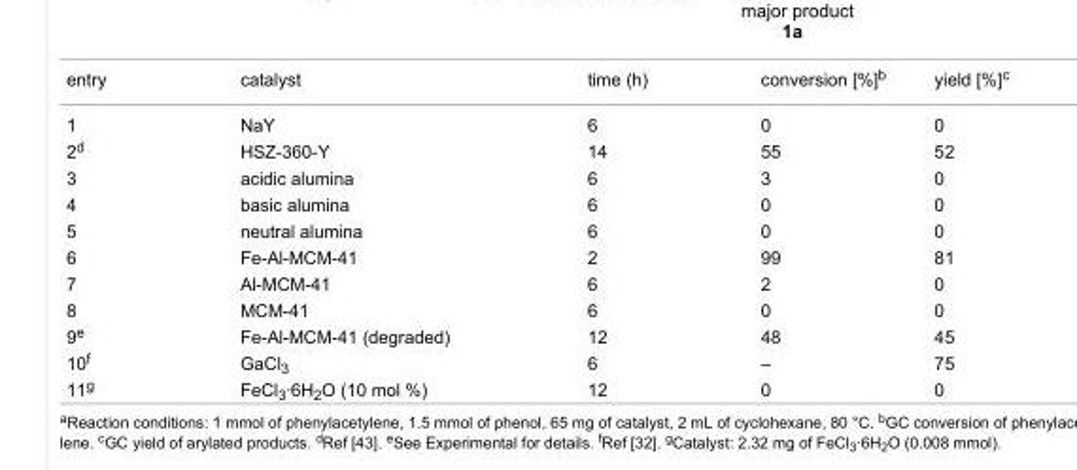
<table><tbody><tr><td>entry</td><td>catalyst</td><td>time (h)</td><td>conversion [%]<sup>b</sup></td><td>yield [%]<sup>c</sup></td></tr><tr><td>1</td><td>NaY</td><td>6</td><td>0</td><td>0</td></tr><tr><td>2<sup>d</sup></td><td>HSZ-360-Y</td><td>14</td><td>55</td><td>52</td></tr><tr><td>3</td><td>acidic alumina</td><td>6</td><td>3</td><td>0</td></tr><tr><td>4</td><td>basic alumina</td><td>6</td><td>0</td><td>0</td></tr><tr><td>5</td><td>neutral alumina</td><td>6</td><td>0</td><td>0</td></tr><tr><td>6</td><td>Fe-Al-MCM-41</td><td>2</td><td>99</td><td>81</td></tr><tr><td>7</td><td>Al-MCM-41</td><td>6</td><td>2</td><td>0</td></tr><tr><td>8</td><td>MCM-41</td><td>6</td><td>0</td><td>0</td></tr><tr><td>9<sup>e</sup></td><td>Fe-Al-MCM-41 (degraded)</td><td>12</td><td>48</td><td>45</td></tr><tr><td>10<sup>f</sup></td><td>GaCl<sub>3</sub></td><td>6</td><td>–</td><td>75</td></tr><tr><td>11<sup>g</sup></td><td>FeCl<sub>3</sub>·6H<sub>2</sub>O (10 mol %)</td><td>12</td><td>0</td><td>0</td></tr></tbody></table>